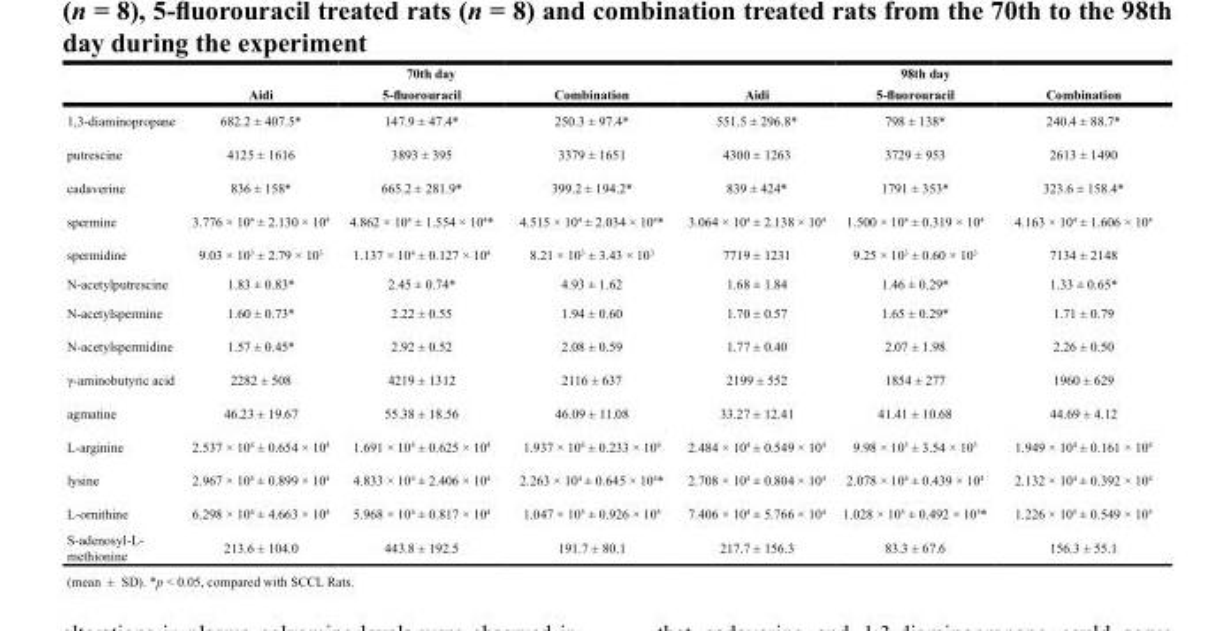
<table><thead><tr><td rowspan="2"></td><td colspan="3">70th day</td><td colspan="3">98th day</td></tr><tr><td>Aidi</td><td>5-fluorouracil</td><td>Combination</td><td>Aidi</td><td>5-fluorouracil</td><td>Combination</td></tr></thead><tbody><tr><td>1,3-diaminopropane</td><td>682.2 ± 407.5*</td><td>147.9 ± 47.4*</td><td>250.3 ± 97.4*</td><td>551.5 ± 296.8*</td><td>798 ± 138*</td><td>240.4 ± 88.7*</td></tr><tr><td>putrescine</td><td>4125 ± 1616</td><td>3893 ± 395</td><td>3379 ± 1651</td><td>4300 ± 1263</td><td>3729 ± 953</td><td>2613 ± 1490</td></tr><tr><td>cadaverine</td><td>836 ± 158*</td><td>665.2 ± 281.9*</td><td>399.2 ± 194.2*</td><td>839 ± 424*</td><td>1791 ± 353*</td><td>323.6 ± 158.4*</td></tr><tr><td>spermine</td><td>3.776 × 10<sup>4</sup> ± 2.130 × 10<sup>4</sup></td><td>4.862 × 10<sup>4</sup> ± 1.554 × 10<sup>4</sup>*</td><td>4.515 × 10<sup>4</sup> ± 2.034 × 10<sup>4</sup>*</td><td>3.064 × 10<sup>4</sup> ± 2.138 × 10<sup>4</sup></td><td>1.500 × 10<sup>4</sup> ± 0.319 × 10<sup>4</sup></td><td>4.163 × 10<sup>4</sup> ± 1.606 × 10<sup>4</sup></td></tr><tr><td>spermidine</td><td>9.03 × 10<sup>3</sup> ± 2.79 × 10<sup>3</sup></td><td>1.137 × 10<sup>4</sup> ± 0.127 × 10<sup>4</sup></td><td>8.21 × 10<sup>3</sup> ± 3.43 × 10<sup>3</sup></td><td>7719 ± 1231</td><td>9.25 × 10<sup>3</sup> ± 0.60 × 10<sup>3</sup></td><td>7134 ± 2148</td></tr><tr><td>N-acetylputrescine</td><td>1.83 ± 0.83*</td><td>2.45 ± 0.74*</td><td>4.93 ± 1.62</td><td>1.68 ± 1.84</td><td>1.46 ± 0.29*</td><td>1.33 ± 0.65*</td></tr><tr><td>N-acetylspermine</td><td>1.60 ± 0.73*</td><td>2.22 ± 0.55</td><td>1.94 ± 0.60</td><td>1.70 ± 0.57</td><td>1.65 ± 0.29*</td><td>1.71 ± 0.79</td></tr><tr><td>N-acetylspermidine</td><td>1.57 ± 0.45*</td><td>2.92 ± 0.52</td><td>2.08 ± 0.59</td><td>1.77 ± 0.40</td><td>2.07 ± 1.98</td><td>2.26 ± 0.50</td></tr><tr><td>γ-aminobutyric acid</td><td>2282 ± 508</td><td>4219 ± 1312</td><td>2116 ± 637</td><td>2199 ± 552</td><td>1854 ± 277</td><td>1960 ± 629</td></tr><tr><td>agmatine</td><td>46.23 ± 19.67</td><td>55.38 ± 18.56</td><td>46.09 ± 11.08</td><td>33.27 ± 12.41</td><td>41.41 ± 10.68</td><td>44.69 ± 4.12</td></tr><tr><td>L-arginine</td><td>2.537 × 10<sup>4</sup> ± 0.654 × 10<sup>4</sup></td><td>1.691 × 10<sup>4</sup> ± 0.625 × 10<sup>4</sup></td><td>1.937 × 10<sup>4</sup> ± 0.233 × 10<sup>4</sup></td><td>2.484 × 10<sup>4</sup> ± 0.549 × 10<sup>4</sup></td><td>9.98 × 10<sup>3</sup> ± 3.54 × 10<sup>3</sup></td><td>1.949 × 10<sup>4</sup> ± 0.161 × 10<sup>4</sup></td></tr><tr><td>lysine</td><td>2.967 × 10<sup>4</sup> ± 0.899 × 10<sup>4</sup></td><td>4.833 × 10<sup>4</sup> ± 2.406 × 10<sup>4</sup></td><td>2.263 × 10<sup>4</sup> ± 0.645 × 10<sup>4</sup>*</td><td>2.708 × 10<sup>4</sup> ± 0.804 × 10<sup>4</sup></td><td>2.078 × 10<sup>4</sup> ± 0.439 × 10<sup>4</sup></td><td>2.132 × 10<sup>4</sup> ± 0.392 × 10<sup>4</sup></td></tr><tr><td>L-ornithine</td><td>6.298 × 10<sup>4</sup> ± 4.663 × 10<sup>4</sup></td><td>5.968 × 10<sup>4</sup> ± 0.817 × 10<sup>4</sup></td><td>1.047 × 10<sup>5</sup> ± 0.926 × 10<sup>5</sup></td><td>7.406 × 10<sup>4</sup> ± 5.766 × 10<sup>4</sup></td><td>1.028 × 10<sup>5</sup> ± 0.492 × 10<sup>5</sup>*</td><td>1.226 × 10<sup>5</sup> ± 0.549 × 10<sup>5</sup></td></tr><tr><td>S-adenosyl-L- methionine</td><td>213.6 ± 104.0</td><td>443.8 ± 192.5</td><td>191.7 ± 80.1</td><td>217.7 ± 156.3</td><td>83.3 ± 67.6</td><td>156.3 ± 55.1</td></tr></tbody></table>